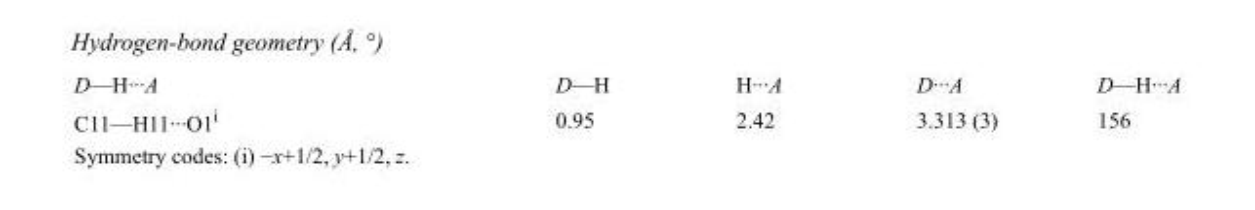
<table><tbody><tr><td>D—H···A</td><td>D—H</td><td>H···A</td><td>D···A</td><td>D—H···A</td></tr><tr><td>C11—H11···O1<sup>i</sup></td><td>0.95</td><td>2.42</td><td>3.313 (3)</td><td>156</td></tr></tbody></table>